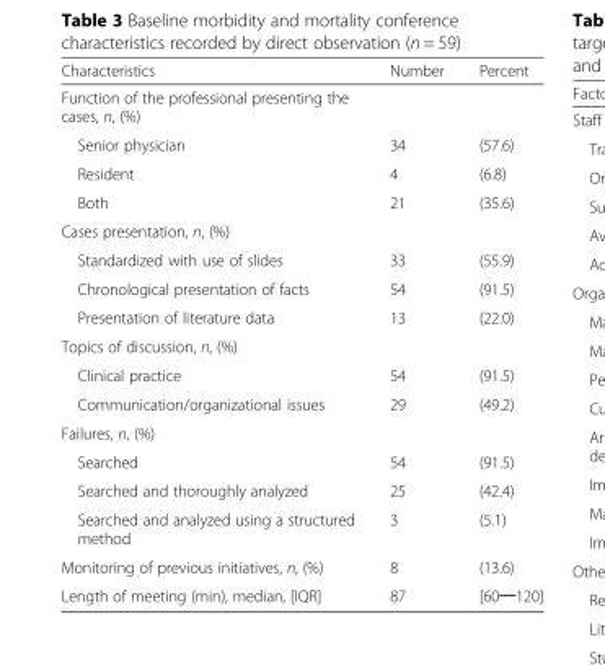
<table><thead><tr><td>Characteristics</td><td>Number</td><td>Percent</td></tr></thead><tbody><tr><td colspan="3">Function of the professional presenting the cases, n, (%)</td></tr><tr><td>Senior physician</td><td>34</td><td>(57.6)</td></tr><tr><td>Resident</td><td>4</td><td>(6.8)</td></tr><tr><td>Both</td><td>21</td><td>(35.6)</td></tr><tr><td colspan="3">Cases presentation, n, (%)</td></tr><tr><td>Standardized with use of slides</td><td>33</td><td>(55.9)</td></tr><tr><td>Chronological presentation of facts</td><td>54</td><td>(91.5)</td></tr><tr><td>Presentation of literature data</td><td>13</td><td>(22.0)</td></tr><tr><td colspan="3">Topics of discussion, n, (%)</td></tr><tr><td>Clinical practice</td><td>54</td><td>(91.5)</td></tr><tr><td>Communication/organizational issues</td><td>29</td><td>(49.2)</td></tr><tr><td colspan="3">Failures, n, (%)</td></tr><tr><td>Searched</td><td>54</td><td>(91.5)</td></tr><tr><td>Searched and thoroughly analyzed</td><td>25</td><td>(42.4)</td></tr><tr><td>Searched and analyzed using a structured method</td><td>3</td><td>(5.1)</td></tr><tr><td>Monitoring of previous initiatives, n, (%)</td><td>8</td><td>(13.6)</td></tr><tr><td>Length of meeting (min), median, [IQR]</td><td>87</td><td>[60─120]</td></tr></tbody></table>